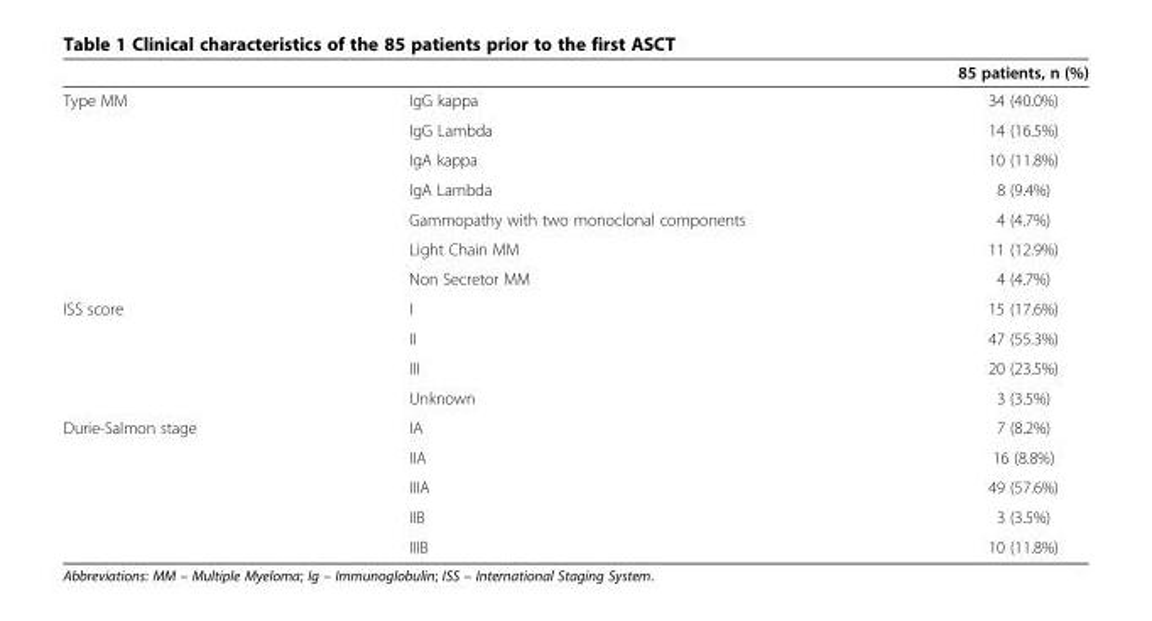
<table><thead><tr><td></td><td></td><td>85 patients, n (%)</td></tr></thead><tbody><tr><td rowspan="7">Type MM</td><td>IgG kappa</td><td>34 (40.0%)</td></tr><tr><td>IgG Lambda</td><td>14 (16.5%)</td></tr><tr><td>IgA kappa</td><td>10 (11.8%)</td></tr><tr><td>IgA Lambda</td><td>8 (9.4%)</td></tr><tr><td>Gammopathy with two monoclonal components</td><td>4 (4.7%)</td></tr><tr><td>Light Chain MM</td><td>11 (12.9%)</td></tr><tr><td>Non Secretor MM</td><td>4 (4.7%)</td></tr><tr><td rowspan="4">ISS score</td><td>I</td><td>15 (17.6%)</td></tr><tr><td>II</td><td>47 (55.3%)</td></tr><tr><td>III</td><td>20 (23.5%)</td></tr><tr><td>Unknown</td><td>3 (3.5%)</td></tr><tr><td rowspan="5">Durie-Salmon stage</td><td>IA</td><td>7 (8.2%)</td></tr><tr><td>IIA</td><td>16 (8.8%)</td></tr><tr><td>IIIA</td><td>49 (57.6%)</td></tr><tr><td>IIB</td><td>3 (3.5%)</td></tr><tr><td>IIIB</td><td>10 (11.8%)</td></tr></tbody></table>